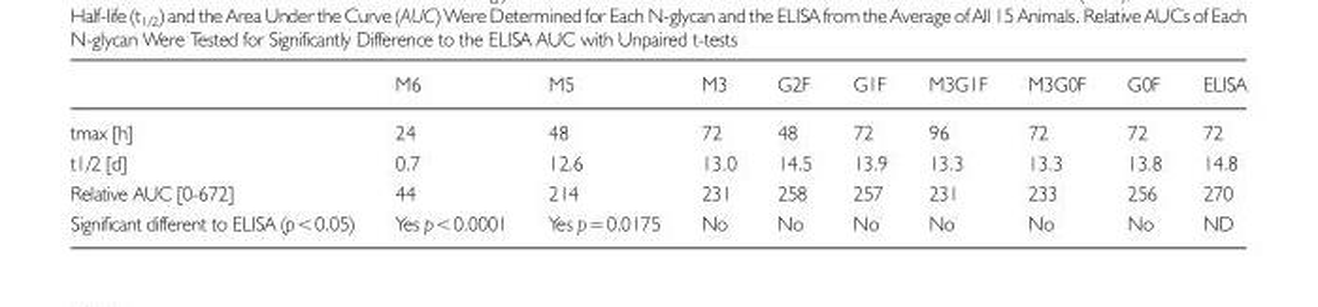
<table><thead><tr><td></td><td>M6</td><td>M5</td><td>M3</td><td>G2F</td><td>G1F</td><td>M3G1F</td><td>M3G0F</td><td>G0F</td><td>ELISA</td></tr></thead><tbody><tr><td>tmax [h]</td><td>24</td><td>48</td><td>72</td><td>48</td><td>72</td><td>96</td><td>72</td><td>72</td><td>72</td></tr><tr><td>t1/2 [d]</td><td>0.7</td><td>12.6</td><td>13.0</td><td>14.5</td><td>13.9</td><td>13.3</td><td>13.3</td><td>13.8</td><td>14.8</td></tr><tr><td>Relative AUC [0-672]</td><td>44</td><td>214</td><td>231</td><td>258</td><td>257</td><td>231</td><td>233</td><td>256</td><td>270</td></tr><tr><td>Significant different to ELISA (p&lt;0.05)</td><td>Yes p&lt;0.0001</td><td>Yes p=0.0175</td><td>No</td><td>No</td><td>No</td><td>No</td><td>No</td><td>No</td><td>ND</td></tr></tbody></table>